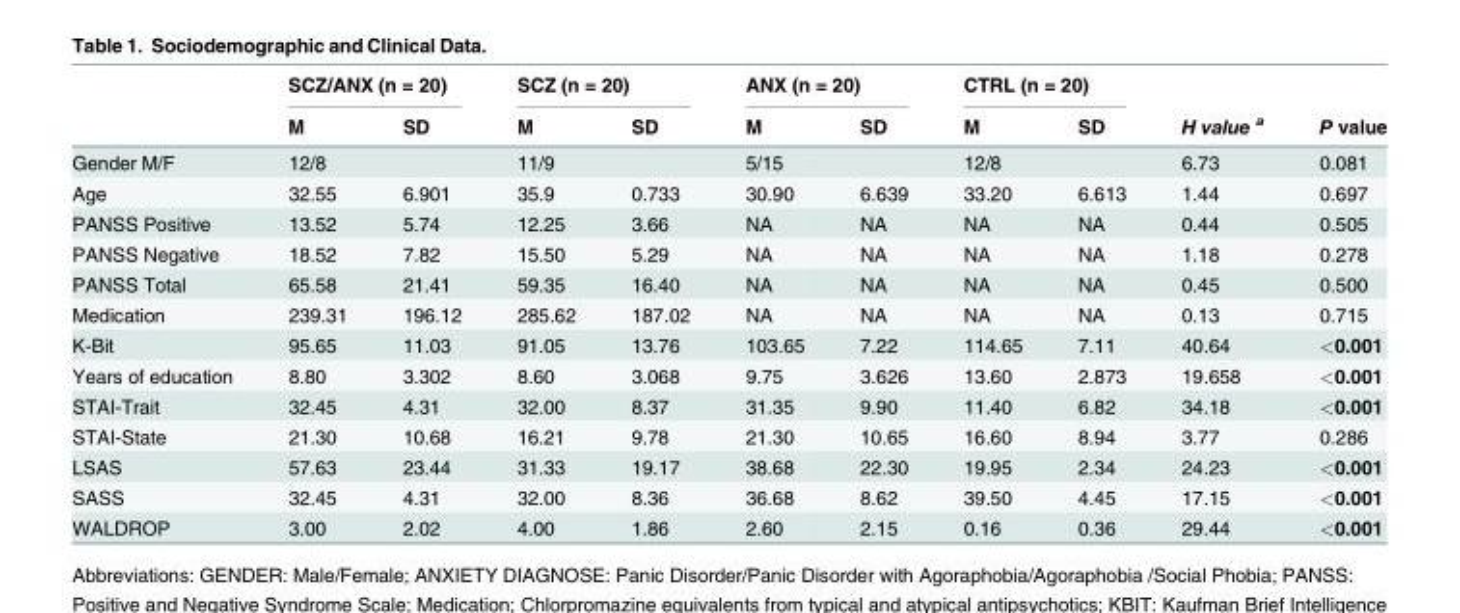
<table><thead><tr><td rowspan="2"></td><td colspan="2">SCZ/ANX (n = 20)</td><td colspan="2">SCZ (n = 20)</td><td colspan="2">ANX (n = 20)</td><td colspan="2">CTRL (n = 20)</td><td rowspan="2">H value <sup>a</sup></td><td rowspan="2">P value</td></tr><tr><td>M</td><td>SD</td><td>M</td><td>SD</td><td>M</td><td>SD</td><td>M</td><td>SD</td></tr></thead><tbody><tr><td>Gender M/F</td><td>12/8</td><td></td><td>11/9</td><td></td><td>5/15</td><td></td><td>12/8</td><td></td><td>6.73</td><td>0.081</td></tr><tr><td>Age</td><td>32.55</td><td>6.901</td><td>35.9</td><td>0.733</td><td>30.90</td><td>6.639</td><td>33.20</td><td>6.613</td><td>1.44</td><td>0.697</td></tr><tr><td>PANSS Positive</td><td>13.52</td><td>5.74</td><td>12.25</td><td>3.66</td><td>NA</td><td>NA</td><td>NA</td><td>NA</td><td>0.44</td><td>0.505</td></tr><tr><td>PANSS Negative</td><td>18.52</td><td>7.82</td><td>15.50</td><td>5.29</td><td>NA</td><td>NA</td><td>NA</td><td>NA</td><td>1.18</td><td>0.278</td></tr><tr><td>PANSS Total</td><td>65.58</td><td>21.41</td><td>59.35</td><td>16.40</td><td>NA</td><td>NA</td><td>NA</td><td>NA</td><td>0.45</td><td>0.500</td></tr><tr><td>Medication</td><td>239.31</td><td>196.12</td><td>285.62</td><td>187.02</td><td>NA</td><td>NA</td><td>NA</td><td>NA</td><td>0.13</td><td>0.715</td></tr><tr><td>K-Bit</td><td>95.65</td><td>11.03</td><td>91.05</td><td>13.76</td><td>103.65</td><td>7.22</td><td>114.65</td><td>7.11</td><td>40.64</td><td>&lt;0.001</td></tr><tr><td>Years of education</td><td>8.80</td><td>3.302</td><td>8.60</td><td>3.068</td><td>9.75</td><td>3.626</td><td>13.60</td><td>2.873</td><td>19.658</td><td>&lt;0.001</td></tr><tr><td>STAI-Trait</td><td>32.45</td><td>4.31</td><td>32.00</td><td>8.37</td><td>31.35</td><td>9.90</td><td>11.40</td><td>6.82</td><td>34.18</td><td>&lt;0.001</td></tr><tr><td>STAI-State</td><td>21.30</td><td>10.68</td><td>16.21</td><td>9.78</td><td>21.30</td><td>10.65</td><td>16.60</td><td>8.94</td><td>3.77</td><td>0.286</td></tr><tr><td>LSAS</td><td>57.63</td><td>23.44</td><td>31.33</td><td>19.17</td><td>38.68</td><td>22.30</td><td>19.95</td><td>2.34</td><td>24.23</td><td>&lt;0.001</td></tr><tr><td>SASS</td><td>32.45</td><td>4.31</td><td>32.00</td><td>8.36</td><td>36.68</td><td>8.62</td><td>39.50</td><td>4.45</td><td>17.15</td><td>&lt;0.001</td></tr><tr><td>WALDROP</td><td>3.00</td><td>2.02</td><td>4.00</td><td>1.86</td><td>2.60</td><td>2.15</td><td>0.16</td><td>0.36</td><td>29.44</td><td>&lt;0.001</td></tr></tbody></table>